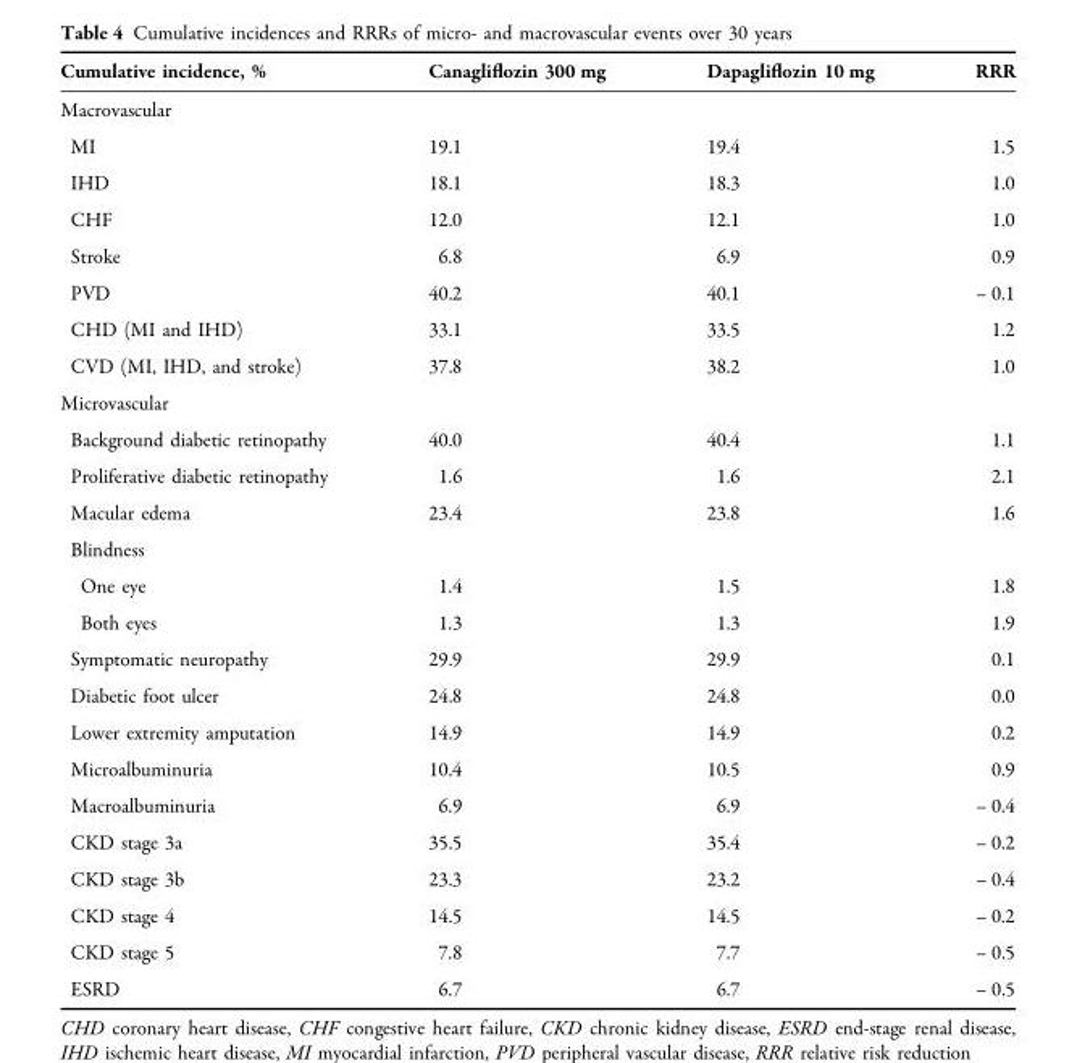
<table><thead><tr><td>Cumulative incidence, %</td><td>Canagliflozin 300 mg</td><td>Dapagliflozin 10 mg</td><td>RRR</td></tr></thead><tbody><tr><td colspan="4">Macrovascular</td></tr><tr><td>MI</td><td>19.1</td><td>19.4</td><td>1.5</td></tr><tr><td>IHD</td><td>18.1</td><td>18.3</td><td>1.0</td></tr><tr><td>CHF</td><td>12.0</td><td>12.1</td><td>1.0</td></tr><tr><td>Stroke</td><td>6.8</td><td>6.9</td><td>0.9</td></tr><tr><td>PVD</td><td>40.2</td><td>40.1</td><td>– 0.1</td></tr><tr><td>CHD (MI and IHD)</td><td>33.1</td><td>33.5</td><td>1.2</td></tr><tr><td>CVD (MI, IHD, and stroke)</td><td>37.8</td><td>38.2</td><td>1.0</td></tr><tr><td colspan="4">Microvascular</td></tr><tr><td>Background diabetic retinopathy</td><td>40.0</td><td>40.4</td><td>1.1</td></tr><tr><td>Proliferative diabetic retinopathy</td><td>1.6</td><td>1.6</td><td>2.1</td></tr><tr><td>Macular edema</td><td>23.4</td><td>23.8</td><td>1.6</td></tr><tr><td colspan="4">Blindness</td></tr><tr><td>One eye</td><td>1.4</td><td>1.5</td><td>1.8</td></tr><tr><td>Both eyes</td><td>1.3</td><td>1.3</td><td>1.9</td></tr><tr><td>Symptomatic neuropathy</td><td>29.9</td><td>29.9</td><td>0.1</td></tr><tr><td>Diabetic foot ulcer</td><td>24.8</td><td>24.8</td><td>0.0</td></tr><tr><td>Lower extremity amputation</td><td>14.9</td><td>14.9</td><td>0.2</td></tr><tr><td>Microalbuminuria</td><td>10.4</td><td>10.5</td><td>0.9</td></tr><tr><td>Macroalbuminuria</td><td>6.9</td><td>6.9</td><td>– 0.4</td></tr><tr><td>CKD stage 3a</td><td>35.5</td><td>35.4</td><td>– 0.2</td></tr><tr><td>CKD stage 3b</td><td>23.3</td><td>23.2</td><td>– 0.4</td></tr><tr><td>CKD stage 4</td><td>14.5</td><td>14.5</td><td>– 0.2</td></tr><tr><td>CKD stage 5</td><td>7.8</td><td>7.7</td><td>– 0.5</td></tr><tr><td>ESRD</td><td>6.7</td><td>6.7</td><td>– 0.5</td></tr></tbody></table>